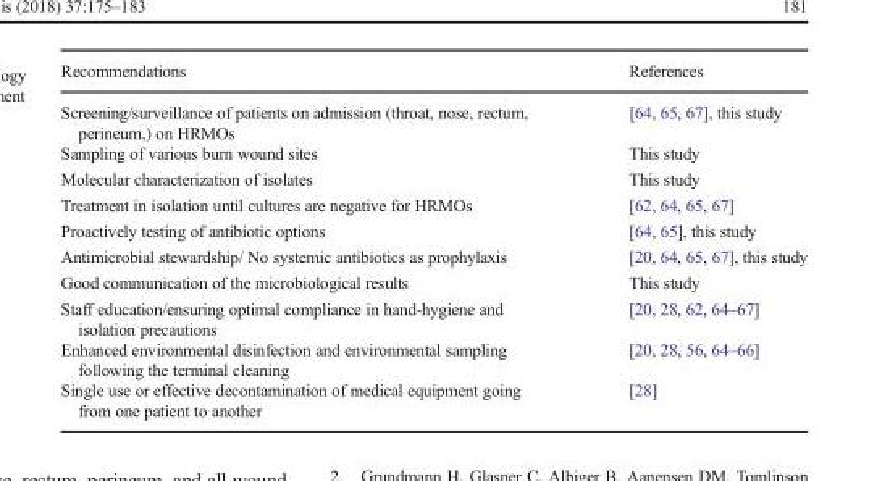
<table><thead><tr><td>Recommendations</td><td>References</td></tr></thead><tbody><tr><td>Screening/surveillance of patients on admission (throat, nose, rectum, perineum,) on HRMOs</td><td>[64, 65, 67], this study</td></tr><tr><td>Sampling of various burn wound sites</td><td>This study</td></tr><tr><td>Molecular characterization of isolates</td><td>This study</td></tr><tr><td>Treatment in isolation until cultures are negative for HRMOs</td><td>[62, 64, 65, 67]</td></tr><tr><td>Proactively testing of antibiotic options</td><td>[64, 65], this study</td></tr><tr><td>Antimicrobial stewardship/ No systemic antibiotics as prophylaxis</td><td>[20, 64, 65, 67], this study</td></tr><tr><td>Good communication of the microbiological results</td><td>This study</td></tr><tr><td>Staff education/ensuring optimal compliance in hand-hygiene and isolation precautions</td><td>[20, 28, 62, 64–67]</td></tr><tr><td>Enhanced environmental disinfection and environmental sampling following the terminal cleaning</td><td>[20, 28, 56, 64–66]</td></tr><tr><td>Single use or effective decontamination of medical equipment going from one patient to another</td><td>[28]</td></tr></tbody></table>